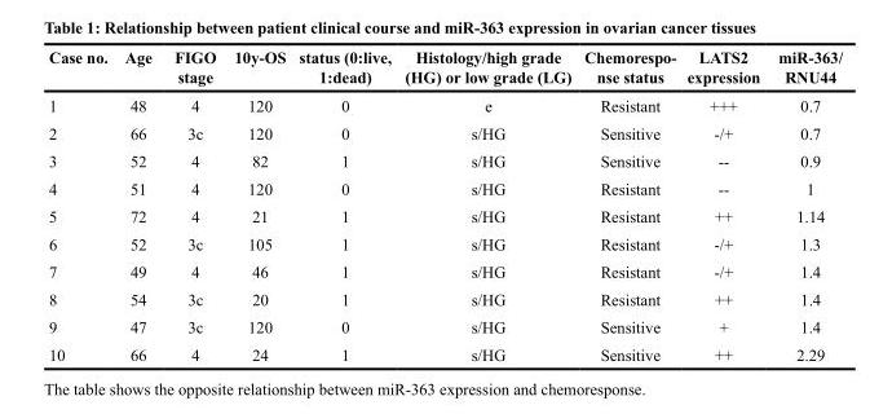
<table><thead><tr><td>Case no.</td><td>Age</td><td>FIGO stage</td><td>10y-OS</td><td>status (0:live, 1:dead)</td><td>Histology/high grade (HG) or low grade (LG)</td><td>Chemorespo- nse status</td><td>LATS2 expression</td><td>miR-363/ RNU44</td></tr></thead><tbody><tr><td>1</td><td>48</td><td>4</td><td>120</td><td>0</td><td>e</td><td>Resistant</td><td>+++</td><td>0.7</td></tr><tr><td>2</td><td>66</td><td>3c</td><td>120</td><td>0</td><td>s/HG</td><td>Sensitive</td><td>-/+</td><td>0.7</td></tr><tr><td>3</td><td>52</td><td>4</td><td>82</td><td>1</td><td>s/HG</td><td>Sensitive</td><td>--</td><td>0.9</td></tr><tr><td>4</td><td>51</td><td>4</td><td>120</td><td>0</td><td>s/HG</td><td>Resistant</td><td>--</td><td>1</td></tr><tr><td>5</td><td>72</td><td>4</td><td>21</td><td>1</td><td>s/HG</td><td>Resistant</td><td>++</td><td>1.14</td></tr><tr><td>6</td><td>52</td><td>3c</td><td>105</td><td>1</td><td>s/HG</td><td>Resistant</td><td>-/+</td><td>1.3</td></tr><tr><td>7</td><td>49</td><td>4</td><td>46</td><td>1</td><td>s/HG</td><td>Resistant</td><td>-/+</td><td>1.4</td></tr><tr><td>8</td><td>54</td><td>3c</td><td>20</td><td>1</td><td>s/HG</td><td>Resistant</td><td>++</td><td>1.4</td></tr><tr><td>9</td><td>47</td><td>3c</td><td>120</td><td>0</td><td>s/HG</td><td>Sensitive</td><td>+</td><td>1.4</td></tr><tr><td>10</td><td>66</td><td>4</td><td>24</td><td>1</td><td>s/HG</td><td>Sensitive</td><td>++</td><td>2.29</td></tr></tbody></table>